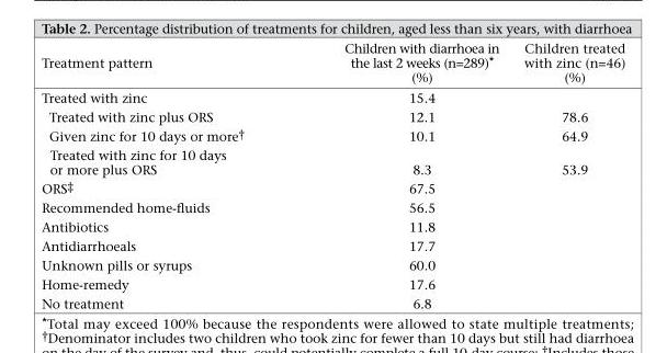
<table><thead><tr><td>Treatment pattern</td><td>Children with diarrhoea in the last 2 weeks (n=289)* (%)</td><td>Children treated with zinc (n=46) (%)</td></tr></thead><tbody><tr><td>Treated with zinc</td><td>15.4</td><td></td></tr><tr><td>Treated with zinc plus ORS</td><td>12.1</td><td>78.6</td></tr><tr><td>Given zinc for 10 days or more†</td><td>10.1</td><td>64.9</td></tr><tr><td>Treated with zinc for 10 days or more plus ORS</td><td>8.3</td><td>53.9</td></tr><tr><td>ORS‡</td><td>67.5</td><td></td></tr><tr><td>Recommended home-fluids</td><td>56.5</td><td></td></tr><tr><td>Antibiotics</td><td>11.8</td><td></td></tr><tr><td>Antidiarrhoeals</td><td>17.7</td><td></td></tr><tr><td>Unknown pills or syrups</td><td>60.0</td><td></td></tr><tr><td>Home-remedy</td><td>17.6</td><td></td></tr><tr><td>No treatment</td><td>6.8</td><td></td></tr></tbody></table>